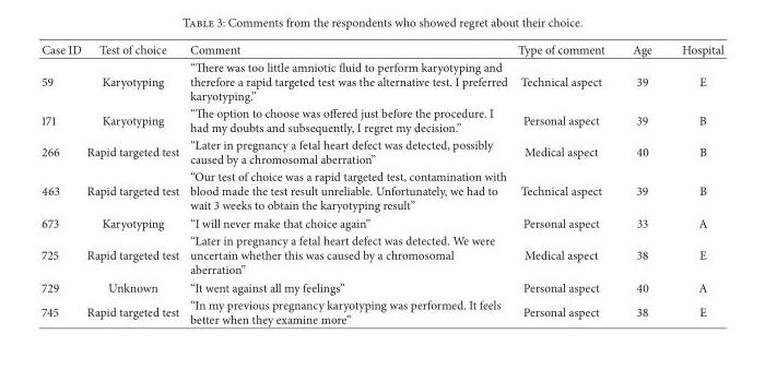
<table><thead><tr><td>Case ID</td><td>Test of choice</td><td>Comment</td><td>Type of comment</td><td>Age</td><td>Hospital</td></tr></thead><tbody><tr><td>59</td><td>Karyotyping</td><td>“There was too little amniotic fluid to perform karyotyping and therefore a rapid targeted test was the alternative test. I preferred karyotyping.”</td><td>Technical aspect</td><td>39</td><td>E</td></tr><tr><td>171</td><td>Karyotyping</td><td>“The option to choose was offered just before the procedure. I had my doubts and subsequently, I regret my decision.”</td><td>Personal aspect</td><td>39</td><td>B</td></tr><tr><td>266</td><td>Rapid targeted test</td><td>“Later in pregnancy a fetal heart defect was detected, possibly caused by a chromosomal aberration”</td><td>Medical aspect</td><td>40</td><td>B</td></tr><tr><td>463</td><td>Rapid targeted test</td><td>“Our test of choice was a rapid targeted test, contamination with blood made the test result unreliable. Unfortunately, we had to wait 3 weeks to obtain the karyotyping result”</td><td>Technical aspect</td><td>39</td><td>B</td></tr><tr><td>673</td><td>Karyotyping</td><td>“I will never make that choice again”</td><td>Personal aspect</td><td>33</td><td>A</td></tr><tr><td>725</td><td>Rapid targeted test</td><td>“Later in pregnancy a fetal heart defect was detected. We were uncertain whether this was caused by a chromosomal aberration”</td><td>Medical aspect</td><td>38</td><td>E</td></tr><tr><td>729</td><td>Unknown</td><td>“It went against all my feelings”</td><td>Personal aspect</td><td>40</td><td>A</td></tr><tr><td>745</td><td>Rapid targeted test</td><td>“In my previous pregnancy karyotyping was performed. It feels better when they examine more”</td><td>Personal aspect</td><td>38</td><td>E</td></tr></tbody></table>